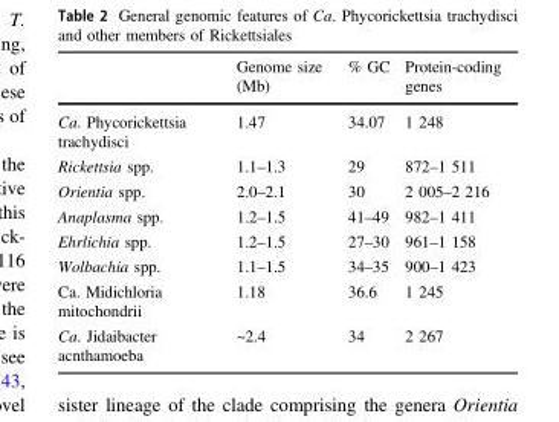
<table><thead><tr><td></td><td>Genome size (Mb)</td><td>% GC</td><td>Protein-coding genes</td></tr></thead><tbody><tr><td>Ca. Phycorickettsia trachydisci</td><td>1.47</td><td>34.07</td><td>1 248</td></tr><tr><td>Rickettsia spp.</td><td>1.1–1.3</td><td>29</td><td>872–1 511</td></tr><tr><td>Orientia spp.</td><td>2.0–2.1</td><td>30</td><td>2 005–2 216</td></tr><tr><td>Anaplasma spp.</td><td>1.2–1.5</td><td>41–49</td><td>982–1 411</td></tr><tr><td>Ehrlichia spp.</td><td>1.2–1.5</td><td>27–30</td><td>961–1 158</td></tr><tr><td>Wolbachia spp.</td><td>1.1–1.5</td><td>34–35</td><td>900–1 423</td></tr><tr><td>Ca. Midichloria mitochondrii</td><td>1.18</td><td>36.6</td><td>1 245</td></tr><tr><td>Ca. Jidaibacter acnthamoeba</td><td>~2.4</td><td>34</td><td>2 267</td></tr></tbody></table>